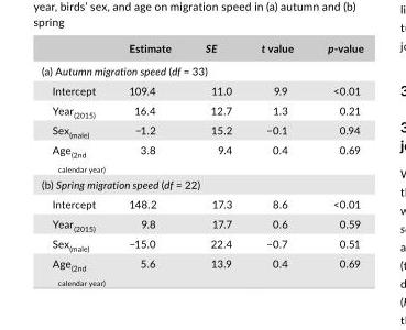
<table><thead><tr><td></td><td>Estimate</td><td>SE</td><td>t value</td><td>p- value</td></tr></thead><tbody><tr><td colspan="5">(a) Autumn migration speed (df = 33)</td></tr><tr><td>Intercept</td><td>109.4</td><td>11.0</td><td>9.9</td><td>&lt;0.01</td></tr><tr><td>Year<sub>(2015)</sub></td><td>16.4</td><td>12.7</td><td>1.3</td><td>0.21</td></tr><tr><td>Sex<sub>(male)</sub></td><td>−1.2</td><td>15.2</td><td>−0.1</td><td>0.94</td></tr><tr><td>Age<sub>(2nd calendar year)</sub></td><td>3.8</td><td>9.4</td><td>0.4</td><td>0.69</td></tr><tr><td colspan="5">(b) Spring migration speed (df = 22)</td></tr><tr><td>Intercept</td><td>148.2</td><td>17.3</td><td>8.6</td><td>&lt;0.01</td></tr><tr><td>Year<sub>(2015)</sub></td><td>9.8</td><td>17.7</td><td>0.6</td><td>0.59</td></tr><tr><td>Sex<sub>(male)</sub></td><td>−15.0</td><td>22.4</td><td>−0.7</td><td>0.51</td></tr><tr><td>Age<sub>(2nd calendar year)</sub></td><td>5.6</td><td>13.9</td><td>0.4</td><td>0.69</td></tr></tbody></table>